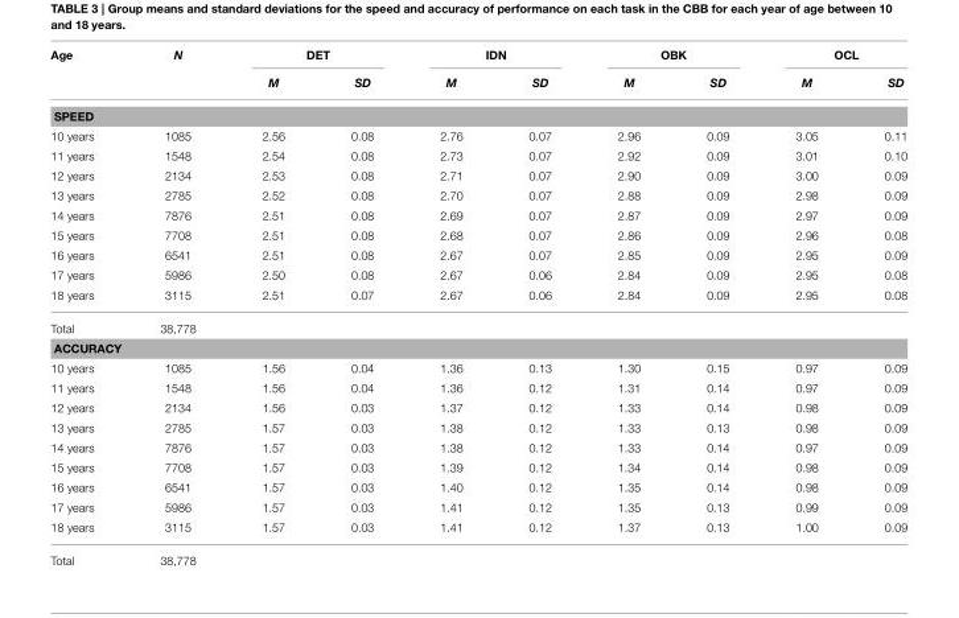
<table><thead><tr><td rowspan="2">Age</td><td rowspan="2">N</td><td colspan="2">DET</td><td colspan="2">IDN</td><td colspan="2">OBK</td><td colspan="2">OCL</td></tr><tr><td>M</td><td>SD</td><td>M</td><td>SD</td><td>M</td><td>SD</td><td>M</td><td>SD</td></tr></thead><tbody><tr><td colspan="10">SPEED</td></tr><tr><td>10 years</td><td>1085</td><td>2.56</td><td>0.08</td><td>2.76</td><td>0.07</td><td>2.96</td><td>0.09</td><td>3.05</td><td>0.11</td></tr><tr><td>11 years</td><td>1548</td><td>2.54</td><td>0.08</td><td>2.73</td><td>0.07</td><td>2.92</td><td>0.09</td><td>3.01</td><td>0.10</td></tr><tr><td>12 years</td><td>2134</td><td>2.53</td><td>0.08</td><td>2.71</td><td>0.07</td><td>2.90</td><td>0.09</td><td>3.00</td><td>0.09</td></tr><tr><td>13 years</td><td>2785</td><td>2.52</td><td>0.08</td><td>2.70</td><td>0.07</td><td>2.88</td><td>0.09</td><td>2.98</td><td>0.09</td></tr><tr><td>14 years</td><td>7876</td><td>2.51</td><td>0.08</td><td>2.69</td><td>0.07</td><td>2.87</td><td>0.09</td><td>2.97</td><td>0.09</td></tr><tr><td>15 years</td><td>7708</td><td>2.51</td><td>0.08</td><td>2.68</td><td>0.07</td><td>2.86</td><td>0.09</td><td>2.96</td><td>0.08</td></tr><tr><td>16 years</td><td>6541</td><td>2.51</td><td>0.08</td><td>2.67</td><td>0.07</td><td>2.85</td><td>0.09</td><td>2.95</td><td>0.09</td></tr><tr><td>17 years</td><td>5986</td><td>2.50</td><td>0.08</td><td>2.67</td><td>0.06</td><td>2.84</td><td>0.09</td><td>2.95</td><td>0.08</td></tr><tr><td>18 years</td><td>3115</td><td>2.51</td><td>0.07</td><td>2.67</td><td>0.06</td><td>2.84</td><td>0.09</td><td>2.95</td><td>0.08</td></tr><tr><td>Total</td><td>38,778</td><td></td><td></td><td></td><td></td><td></td><td></td><td></td><td></td></tr><tr><td colspan="10">ACCURACY</td></tr><tr><td>10 years</td><td>1085</td><td>1.56</td><td>0.04</td><td>1.36</td><td>0.13</td><td>1.30</td><td>0.15</td><td>0.97</td><td>0.09</td></tr><tr><td>11 years</td><td>1548</td><td>1.56</td><td>0.04</td><td>1.36</td><td>0.12</td><td>1.31</td><td>0.14</td><td>0.97</td><td>0.09</td></tr><tr><td>12 years</td><td>2134</td><td>1.56</td><td>0.03</td><td>1.37</td><td>0.12</td><td>1.33</td><td>0.14</td><td>0.98</td><td>0.09</td></tr><tr><td>13 years</td><td>2785</td><td>1.57</td><td>0.03</td><td>1.38</td><td>0.12</td><td>1.33</td><td>0.13</td><td>0.98</td><td>0.09</td></tr><tr><td>14 years</td><td>7876</td><td>1.57</td><td>0.03</td><td>1.38</td><td>0.12</td><td>1.33</td><td>0.14</td><td>0.97</td><td>0.09</td></tr><tr><td>15 years</td><td>7708</td><td>1.57</td><td>0.03</td><td>1.39</td><td>0.12</td><td>1.34</td><td>0.14</td><td>0.98</td><td>0.09</td></tr><tr><td>16 years</td><td>6541</td><td>1.57</td><td>0.03</td><td>1.40</td><td>0.12</td><td>1.35</td><td>0.14</td><td>0.98</td><td>0.09</td></tr><tr><td>17 years</td><td>5986</td><td>1.57</td><td>0.03</td><td>1.41</td><td>0.12</td><td>1.35</td><td>0.13</td><td>0.99</td><td>0.09</td></tr><tr><td>18 years</td><td>3115</td><td>1.57</td><td>0.03</td><td>1.41</td><td>0.12</td><td>1.37</td><td>0.13</td><td>1.00</td><td>0.09</td></tr><tr><td>Total</td><td>38,778</td><td></td><td></td><td></td><td></td><td></td><td></td><td></td><td></td></tr></tbody></table>